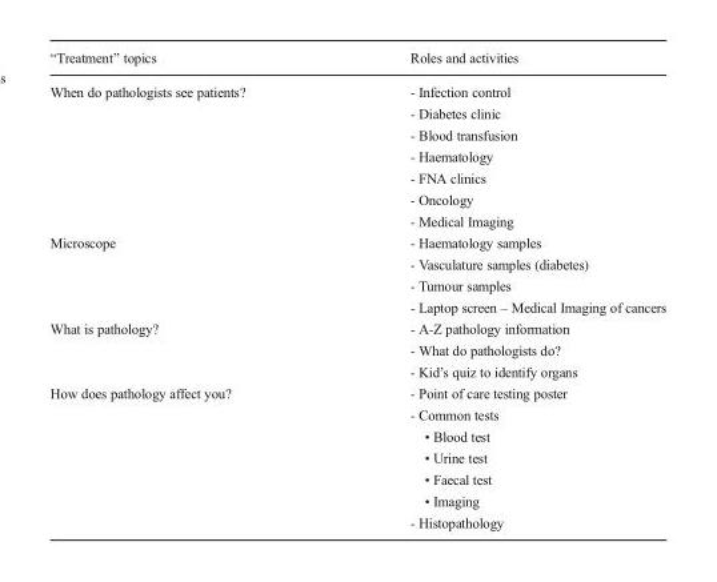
<table><thead><tr><td>“Treatment” topics</td><td>Roles and activities</td></tr></thead><tbody><tr><td>When do pathologists see patients?</td><td>- Infection control - Diabetes clinic - Blood transfusion - Haematology - FNA clinics - Oncology - Medical Imaging</td></tr><tr><td>Microscope</td><td>- Haematology samples - Vasculature samples (diabetes) - Tumour samples - Laptop screen – Medical Imaging of cancers</td></tr><tr><td>What is pathology?</td><td>- A-Z pathology information - What do pathologists do? - Kid’s quiz to identify organs</td></tr><tr><td>How does pathology affect you?</td><td>- Point of care testing poster - Common tests • Blood test • Urine test • Faecal test • Imaging - Histopathology</td></tr></tbody></table>